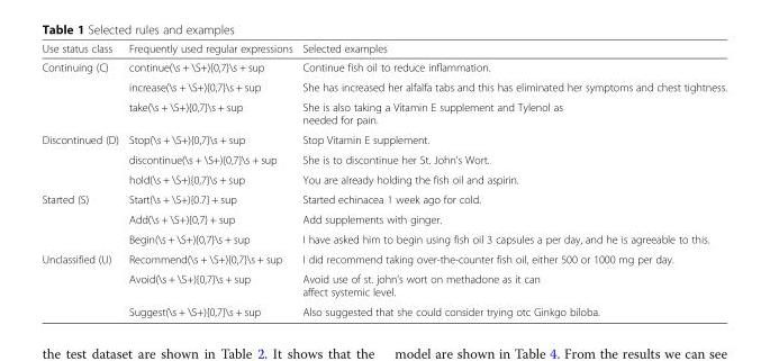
<table><thead><tr><td>Use status class</td><td>Frequently used regular expressions</td><td>Selected examples</td></tr></thead><tbody><tr><td rowspan="3">Continuing (C)</td><td>continue(\s + \S+){0,7}\s + sup</td><td>Continue fish oil to reduce inflammation.</td></tr><tr><td>increase(\s + \S+){0,7}\s + sup</td><td>She has increased her alfalfa tabs and this has eliminated her symptoms and chest tightness.</td></tr><tr><td>take(\s + \S+){0,7}\s + sup</td><td>She is also taking a Vitamin E supplement and Tylenol as needed for pain.</td></tr><tr><td rowspan="3">Discontinued (D)</td><td>Stop(\s + \S+){0,7}\s + sup</td><td>Stop Vitamin E supplement.</td></tr><tr><td>discontinue(\s + \S+){0,7}\s + sup</td><td>She is to discontinue her St. John’s Wort.</td></tr><tr><td>hold(\s + \S+){0,7}\s + sup</td><td>You are already holding the fish oil and aspirin.</td></tr><tr><td rowspan="3">Started (S)</td><td>Start(\s + \S+){0.7} + sup</td><td>Started echinacea 1 week ago for cold.</td></tr><tr><td>Add(\s + \S+){0,7} + sup</td><td>Add supplements with ginger.</td></tr><tr><td>Begin(\s + \S+){0,7}\s + sup</td><td>I have asked him to begin using fish oil 3 capsules a per day, and he is agreeable to this.</td></tr><tr><td rowspan="3">Unclassified (U)</td><td>Recommend(\s + \S+){0,7}\s + sup</td><td>I did recommend taking over-the-counter fish oil, either 500 or 1000 mg per day.</td></tr><tr><td>Avoid(\s + \S+){0,7}\s + sup</td><td>Avoid use of st. john’s wort on methadone as it can affect systemic level.</td></tr><tr><td>Suggest(\s + \S+){0,7}\s + sup</td><td>Also suggested that she could consider trying otc Ginkgo biloba.</td></tr></tbody></table>